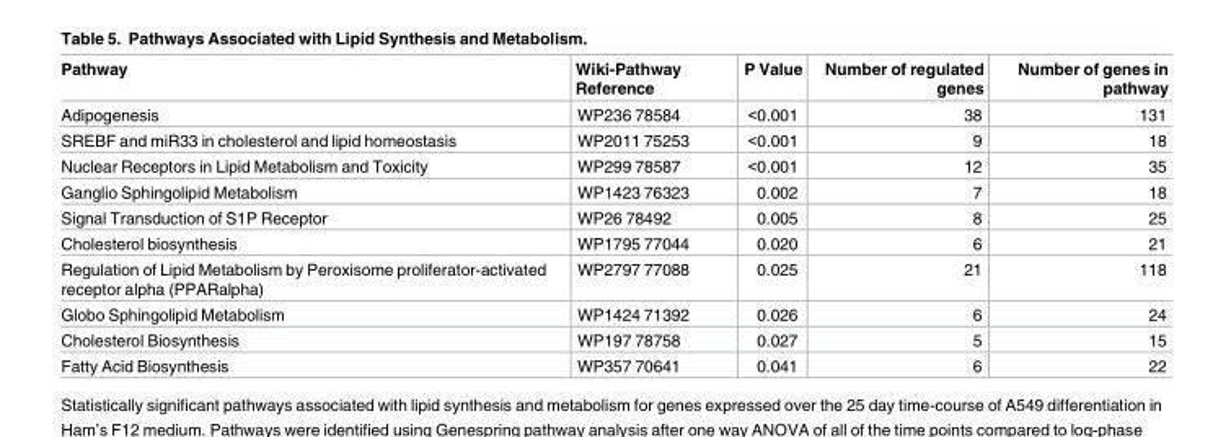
<table><thead><tr><td>Pathway</td><td>Wiki-Pathway Reference</td><td>P Value</td><td>Number of regulated genes</td><td>Number of genes in pathway</td></tr></thead><tbody><tr><td>Adipogenesis</td><td>WP236 78584</td><td>&lt;0.001</td><td>38</td><td>131</td></tr><tr><td>SREBF and miR33 in cholesterol and lipid homeostasis</td><td>WP2011 75253</td><td>&lt;0.001</td><td>9</td><td>18</td></tr><tr><td>Nuclear Receptors in Lipid Metabolism and Toxicity</td><td>WP299 78587</td><td>&lt;0.001</td><td>12</td><td>35</td></tr><tr><td>Ganglio Sphingolipid Metabolism</td><td>WP1423 76323</td><td>0.002</td><td>7</td><td>18</td></tr><tr><td>Signal Transduction of S1P Receptor</td><td>WP26 78492</td><td>0.005</td><td>8</td><td>25</td></tr><tr><td>Cholesterol biosynthesis</td><td>WP1795 77044</td><td>0.020</td><td>6</td><td>21</td></tr><tr><td>Regulation of Lipid Metabolism by Peroxisome proliferator-activated receptor alpha (PPARalpha)</td><td>WP2797 77088</td><td>0.025</td><td>21</td><td>118</td></tr><tr><td>Globo Sphingolipid Metabolism</td><td>WP1424 71392</td><td>0.026</td><td>6</td><td>24</td></tr><tr><td>Cholesterol Biosynthesis</td><td>WP197 78758</td><td>0.027</td><td>5</td><td>15</td></tr><tr><td>Fatty Acid Biosynthesis</td><td>WP357 70641</td><td>0.041</td><td>6</td><td>22</td></tr></tbody></table>